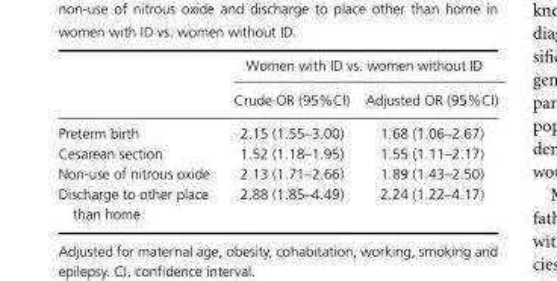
<table><thead><tr><td rowspan="2"></td><td colspan="2">Women with ID vs. women without ID</td></tr><tr><td>Crude OR (95%CI)</td><td>Adjusted OR (95%CI)</td></tr></thead><tbody><tr><td>Preterm birth</td><td>2.15 (1.55–3.00)</td><td>1.68 (1.06–2.67)</td></tr><tr><td>Cesarean section</td><td>1.52 (1.18–1.95)</td><td>1.55 (1.11–2.17)</td></tr><tr><td>Non-use of nitrous oxide</td><td>2.13 (1.71–2.66)</td><td>1.89 (1.43–2.50)</td></tr><tr><td>Discharge to other place than home</td><td>2.88 (1.85–4.49)</td><td>2.24 (1.22–4.17)</td></tr></tbody></table>